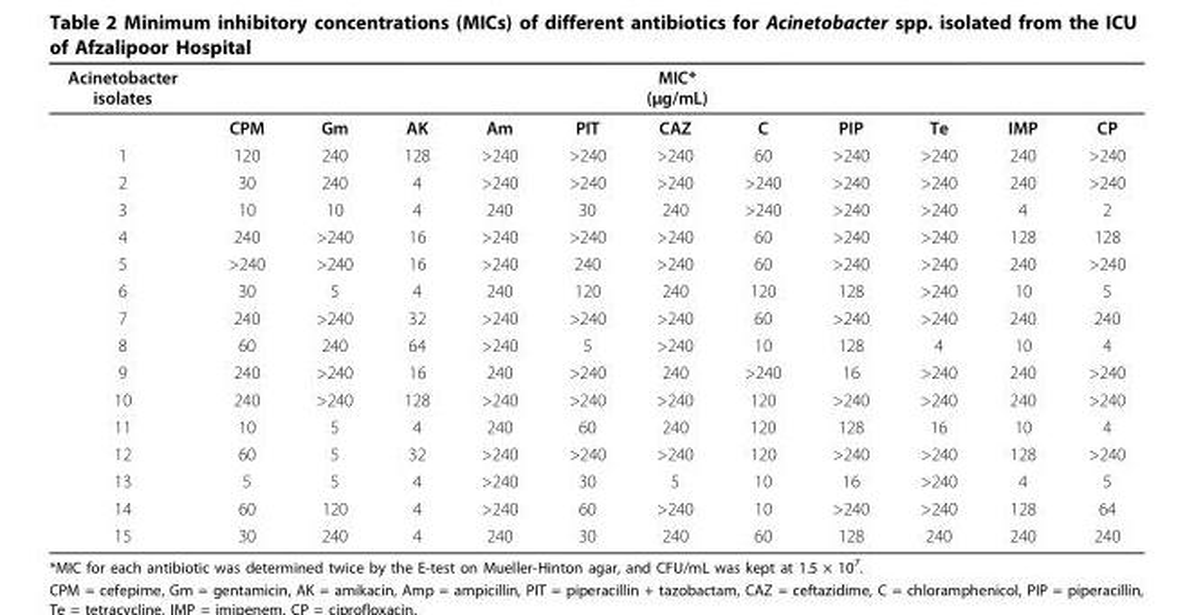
<table><thead><tr><td rowspan="2">Acinetobacter isolates</td><td colspan="11">MIC* (µg/mL)</td></tr><tr><td>CPM</td><td>Gm</td><td>AK</td><td>Am</td><td>PIT</td><td>CAZ</td><td>C</td><td>PIP</td><td>Te</td><td>IMP</td><td>CP</td></tr></thead><tbody><tr><td>1</td><td>120</td><td>240</td><td>128</td><td>&gt;240</td><td>&gt;240</td><td>&gt;240</td><td>60</td><td>&gt;240</td><td>&gt;240</td><td>240</td><td>&gt;240</td></tr><tr><td>2</td><td>30</td><td>240</td><td>4</td><td>&gt;240</td><td>&gt;240</td><td>&gt;240</td><td>&gt;240</td><td>&gt;240</td><td>&gt;240</td><td>240</td><td>&gt;240</td></tr><tr><td>3</td><td>10</td><td>10</td><td>4</td><td>240</td><td>30</td><td>240</td><td>&gt;240</td><td>&gt;240</td><td>&gt;240</td><td>4</td><td>2</td></tr><tr><td>4</td><td>240</td><td>&gt;240</td><td>16</td><td>&gt;240</td><td>&gt;240</td><td>&gt;240</td><td>60</td><td>&gt;240</td><td>&gt;240</td><td>128</td><td>128</td></tr><tr><td>5</td><td>&gt;240</td><td>&gt;240</td><td>16</td><td>&gt;240</td><td>240</td><td>&gt;240</td><td>60</td><td>&gt;240</td><td>&gt;240</td><td>240</td><td>&gt;240</td></tr><tr><td>6</td><td>30</td><td>5</td><td>4</td><td>240</td><td>120</td><td>240</td><td>120</td><td>128</td><td>&gt;240</td><td>10</td><td>5</td></tr><tr><td>7</td><td>240</td><td>&gt;240</td><td>32</td><td>&gt;240</td><td>&gt;240</td><td>&gt;240</td><td>60</td><td>&gt;240</td><td>&gt;240</td><td>240</td><td>240</td></tr><tr><td>8</td><td>60</td><td>240</td><td>64</td><td>&gt;240</td><td>5</td><td>&gt;240</td><td>10</td><td>128</td><td>4</td><td>10</td><td>4</td></tr><tr><td>9</td><td>240</td><td>&gt;240</td><td>16</td><td>240</td><td>&gt;240</td><td>240</td><td>&gt;240</td><td>16</td><td>&gt;240</td><td>240</td><td>&gt;240</td></tr><tr><td>10</td><td>240</td><td>&gt;240</td><td>128</td><td>&gt;240</td><td>&gt;240</td><td>&gt;240</td><td>120</td><td>&gt;240</td><td>&gt;240</td><td>240</td><td>&gt;240</td></tr><tr><td>11</td><td>10</td><td>5</td><td>4</td><td>240</td><td>60</td><td>240</td><td>120</td><td>128</td><td>16</td><td>10</td><td>4</td></tr><tr><td>12</td><td>60</td><td>5</td><td>32</td><td>&gt;240</td><td>&gt;240</td><td>&gt;240</td><td>120</td><td>&gt;240</td><td>&gt;240</td><td>128</td><td>&gt;240</td></tr><tr><td>13</td><td>5</td><td>5</td><td>4</td><td>&gt;240</td><td>30</td><td>5</td><td>10</td><td>16</td><td>&gt;240</td><td>4</td><td>5</td></tr><tr><td>14</td><td>60</td><td>120</td><td>4</td><td>&gt;240</td><td>60</td><td>&gt;240</td><td>10</td><td>&gt;240</td><td>&gt;240</td><td>128</td><td>64</td></tr><tr><td>15</td><td>30</td><td>240</td><td>4</td><td>240</td><td>30</td><td>240</td><td>60</td><td>128</td><td>240</td><td>240</td><td>240</td></tr></tbody></table>